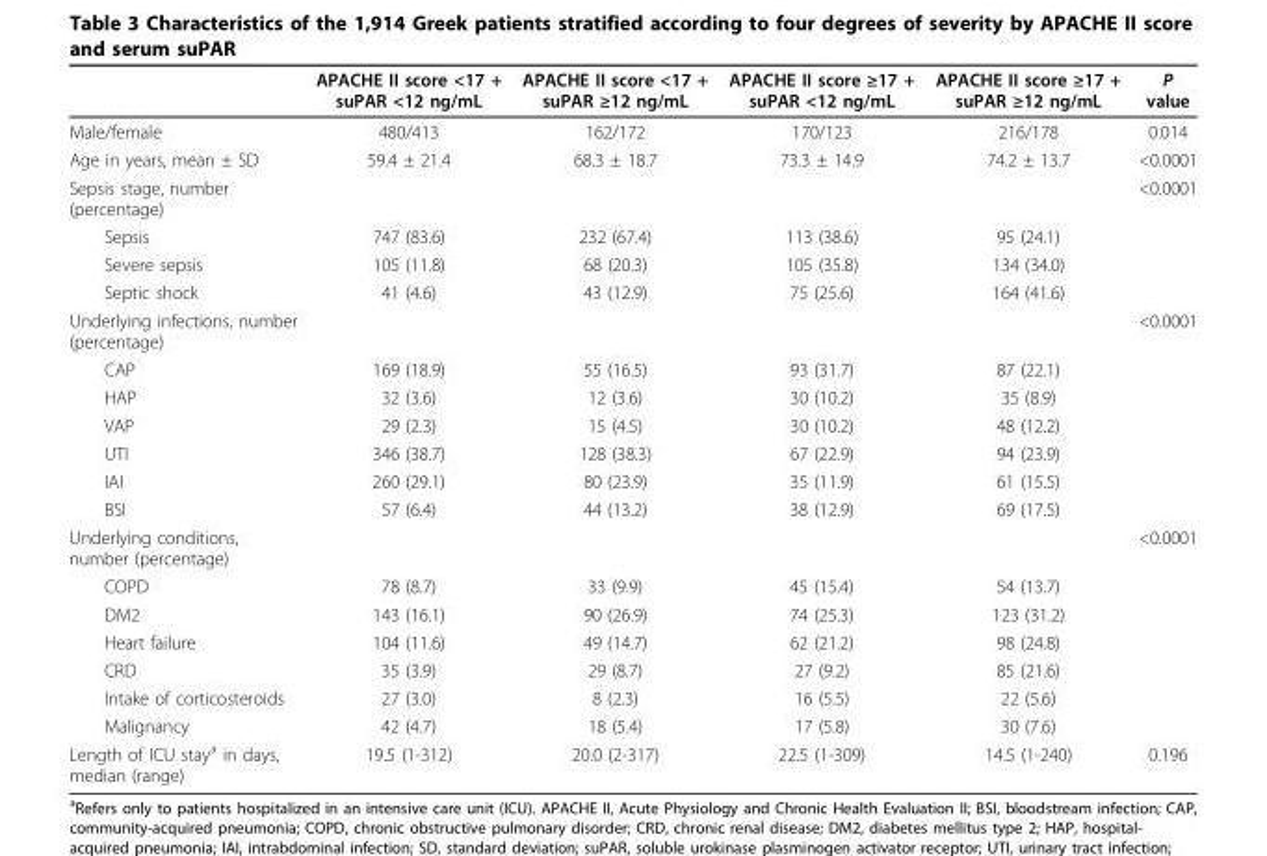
<table><thead><tr><td></td><td>APACHE II score &lt;17 + suPAR &lt;12 ng/mL</td><td>APACHE II score &lt;17 + suPAR ≥12 ng/mL</td><td>APACHE II score ≥17 + suPAR &lt;12 ng/mL</td><td>APACHE II score ≥17 + suPAR ≥12 ng/mL</td><td>P value</td></tr></thead><tbody><tr><td>Male/female</td><td>480/413</td><td>162/172</td><td>170/123</td><td>216/178</td><td>0.014</td></tr><tr><td>Age in years, mean ± SD</td><td>59.4 ± 21.4</td><td>68.3 ± 18.7</td><td>73.3 ± 14.9</td><td>74.2 ± 13.7</td><td>&lt;0.0001</td></tr><tr><td>Sepsis stage, number (percentage)</td><td></td><td></td><td></td><td></td><td>&lt;0.0001</td></tr><tr><td>Sepsis</td><td>747 (83.6)</td><td>232 (67.4)</td><td>113 (38.6)</td><td>95 (24.1)</td><td></td></tr><tr><td>Severe sepsis</td><td>105 (11.8)</td><td>68 (20.3)</td><td>105 (35.8)</td><td>134 (34.0)</td><td></td></tr><tr><td>Septic shock</td><td>41 (4.6)</td><td>43 (12.9)</td><td>75 (25.6)</td><td>164 (41.6)</td><td></td></tr><tr><td>Underlying infections, number (percentage)</td><td></td><td></td><td></td><td></td><td>&lt;0.0001</td></tr><tr><td>CAP</td><td>169 (18.9)</td><td>55 (16.5)</td><td>93 (31.7)</td><td>87 (22.1)</td><td></td></tr><tr><td>HAP</td><td>32 (3.6)</td><td>12 (3.6)</td><td>30 (10.2)</td><td>35 (8.9)</td><td></td></tr><tr><td>VAP</td><td>29 (2.3)</td><td>15 (4.5)</td><td>30 (10.2)</td><td>48 (12.2)</td><td></td></tr><tr><td>UTI</td><td>346 (38.7)</td><td>128 (38.3)</td><td>67 (22.9)</td><td>94 (23.9)</td><td></td></tr><tr><td>IAI</td><td>260 (29.1)</td><td>80 (23.9)</td><td>35 (11.9)</td><td>61 (15.5)</td><td></td></tr><tr><td>BSI</td><td>57 (6.4)</td><td>44 (13.2)</td><td>38 (12.9)</td><td>69 (17.5)</td><td></td></tr><tr><td>Underlying conditions, number (percentage)</td><td></td><td></td><td></td><td></td><td>&lt;0.0001</td></tr><tr><td>COPD</td><td>78 (8.7)</td><td>33 (9.9)</td><td>45 (15.4)</td><td>54 (13.7)</td><td></td></tr><tr><td>DM2</td><td>143 (16.1)</td><td>90 (26.9)</td><td>74 (25.3)</td><td>123 (31.2)</td><td></td></tr><tr><td>Heart failure</td><td>104 (11.6)</td><td>49 (14.7)</td><td>62 (21.2)</td><td>98 (24.8)</td><td></td></tr><tr><td>CRD</td><td>35 (3.9)</td><td>29 (8.7)</td><td>27 (9.2)</td><td>85 (21.6)</td><td></td></tr><tr><td>Intake of corticosteroids</td><td>27 (3.0)</td><td>8 (2.3)</td><td>16 (5.5)</td><td>22 (5.6)</td><td></td></tr><tr><td>Malignancy</td><td>42 (4.7)</td><td>18 (5.4)</td><td>17 (5.8)</td><td>30 (7.6)</td><td></td></tr><tr><td>Length of ICU stay<sup>a</sup> in days, median (range)</td><td>19.5 (1-312)</td><td>20.0 (2-317)</td><td>22.5 (1-309)</td><td>14.5 (1-240)</td><td>0.196</td></tr></tbody></table>